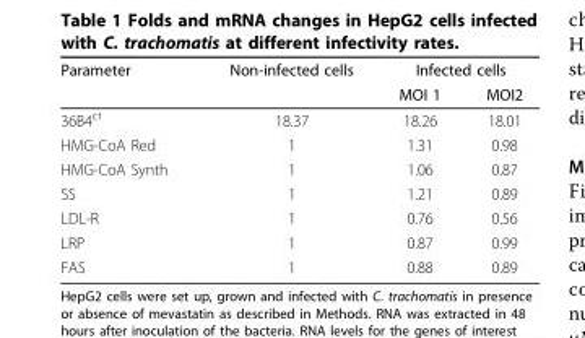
<table><thead><tr><td rowspan="2">Parameter</td><td rowspan="2">Non-infected cells</td><td colspan="2">Infected cells</td></tr><tr><td>MOI 1</td><td>MOI2</td></tr></thead><tbody><tr><td>36B4<sup>ct</sup></td><td>18.37</td><td>18.26</td><td>18.01</td></tr><tr><td>HMG-CoA Red</td><td>1</td><td>1.31</td><td>0.98</td></tr><tr><td>HMG-CoA Synth</td><td>1</td><td>1.06</td><td>0.87</td></tr><tr><td>SS</td><td>1</td><td>1.21</td><td>0.89</td></tr><tr><td>LDL-R</td><td>1</td><td>0.76</td><td>0.56</td></tr><tr><td>LRP</td><td>1</td><td>0.87</td><td>0.99</td></tr><tr><td>FAS</td><td>1</td><td>0.88</td><td>0.89</td></tr></tbody></table>